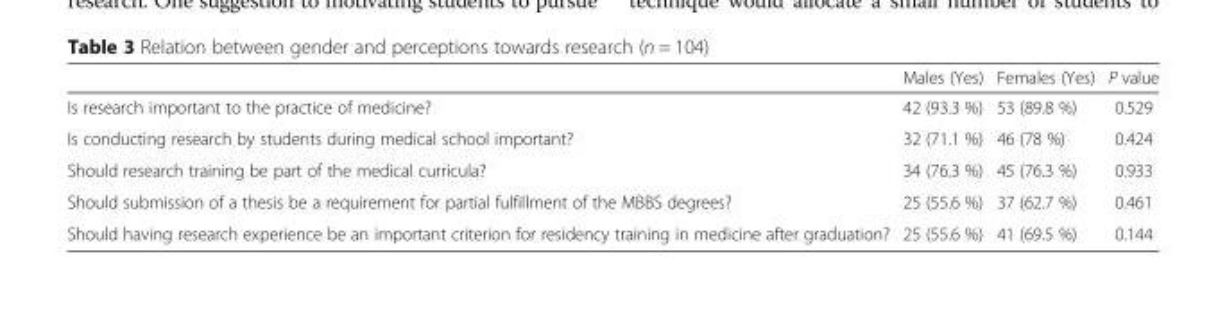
<table><thead><tr><td></td><td>Males (Yes)</td><td>Females (Yes)</td><td>P value</td></tr></thead><tbody><tr><td>Is research important to the practice of medicine?</td><td>42 (93.3 %)</td><td>53 (89.8 %)</td><td>0.529</td></tr><tr><td>Is conducting research by students during medical school important?</td><td>32 (71.1 %)</td><td>46 (78 %)</td><td>0.424</td></tr><tr><td>Should research training be part of the medical curricula?</td><td>34 (76.3 %)</td><td>45 (76.3 %)</td><td>0.933</td></tr><tr><td>Should submission of a thesis be a requirement for partial fulfillment of the MBBS degrees?</td><td>25 (55.6 %)</td><td>37 (62.7 %)</td><td>0.461</td></tr><tr><td>Should having research experience be an important criterion for residency training in medicine after graduation?</td><td>25 (55.6 %)</td><td>41 (69.5 %)</td><td>0.144</td></tr></tbody></table>